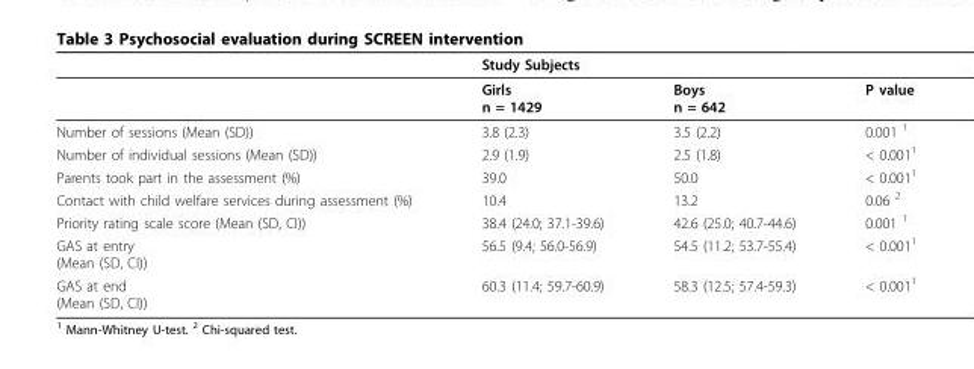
<table><thead><tr><td></td><td>Study Subjects</td><td></td><td></td></tr></thead><tbody><tr><td></td><td>Girls n = 1429</td><td>Boys n = 642</td><td>P value</td></tr><tr><td>Number of sessions (Mean (SD))</td><td>3.8 (2.3)</td><td>3.5 (2.2)</td><td>0.001 <sup>1</sup></td></tr><tr><td>Number of individual sessions (Mean (SD))</td><td>2.9 (1.9)</td><td>2.5 (1.8)</td><td>&lt; 0.001<sup>1</sup></td></tr><tr><td>Parents took part in the assessment (%)</td><td>39.0</td><td>50.0</td><td>&lt; 0.001<sup>1</sup></td></tr><tr><td>Contact with child welfare services during assessment (%)</td><td>10.4</td><td>13.2</td><td>0.06 <sup>2</sup></td></tr><tr><td>Priority rating scale score (Mean (SD, CI))</td><td>38.4 (24.0; 37.1-39.6)</td><td>42.6 (25.0; 40.7-44.6)</td><td>0.001 <sup>1</sup></td></tr><tr><td>GAS at entry (Mean (SD, CI))</td><td>56.5 (9.4; 56.0-56.9)</td><td>54.5 (11.2; 53.7-55.4)</td><td>&lt; 0.001<sup>1</sup></td></tr><tr><td>GAS at end (Mean (SD, CI))</td><td>60.3 (11.4; 59.7-60.9)</td><td>58.3 (12.5; 57.4-59.3)</td><td>&lt; 0.001<sup>1</sup></td></tr></tbody></table>